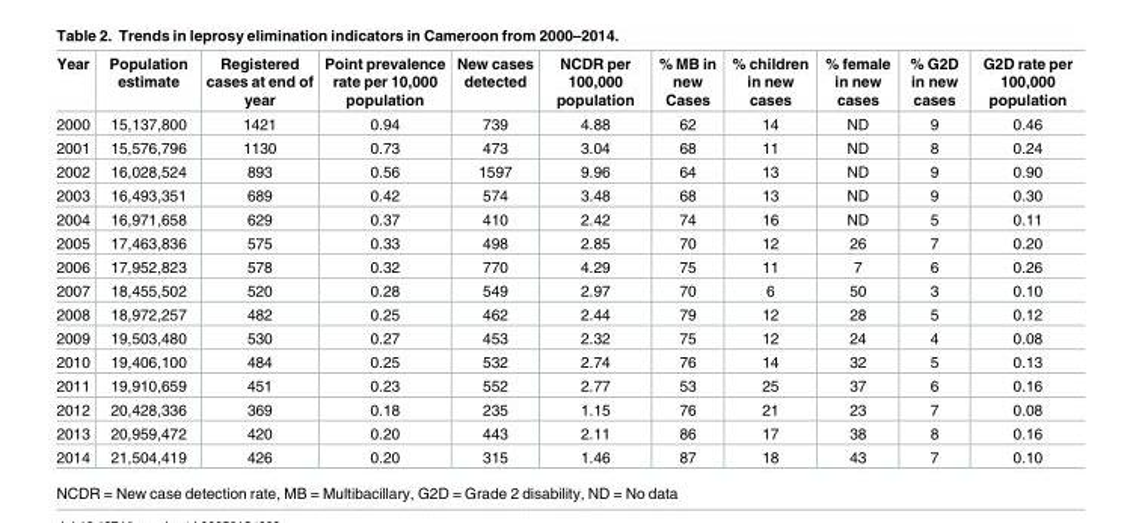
<table><thead><tr><td>Year</td><td>Population estimate</td><td>Registered cases at end of year</td><td>Point prevalence rate per 10,000 population</td><td>New cases detected</td><td>NCDR per 100,000 population</td><td>% MB in new Cases</td><td>% children in new cases</td><td>% female in new cases</td><td>% G2D in new cases</td><td>G2D rate per 100,000 population</td></tr></thead><tbody><tr><td>2000</td><td>15,137,800</td><td>1421</td><td>0.94</td><td>739</td><td>4.88</td><td>62</td><td>14</td><td>ND</td><td>9</td><td>0.46</td></tr><tr><td>2001</td><td>15,576,796</td><td>1130</td><td>0.73</td><td>473</td><td>3.04</td><td>68</td><td>11</td><td>ND</td><td>8</td><td>0.24</td></tr><tr><td>2002</td><td>16,028,524</td><td>893</td><td>0.56</td><td>1597</td><td>9.96</td><td>64</td><td>13</td><td>ND</td><td>9</td><td>0.90</td></tr><tr><td>2003</td><td>16,493,351</td><td>689</td><td>0.42</td><td>574</td><td>3.48</td><td>68</td><td>13</td><td>ND</td><td>9</td><td>0.30</td></tr><tr><td>2004</td><td>16,971,658</td><td>629</td><td>0.37</td><td>410</td><td>2.42</td><td>74</td><td>16</td><td>ND</td><td>5</td><td>0.11</td></tr><tr><td>2005</td><td>17,463,836</td><td>575</td><td>0.33</td><td>498</td><td>2.85</td><td>70</td><td>12</td><td>26</td><td>7</td><td>0.20</td></tr><tr><td>2006</td><td>17,952,823</td><td>578</td><td>0.32</td><td>770</td><td>4.29</td><td>75</td><td>11</td><td>7</td><td>6</td><td>0.26</td></tr><tr><td>2007</td><td>18,455,502</td><td>520</td><td>0.28</td><td>549</td><td>2.97</td><td>70</td><td>6</td><td>50</td><td>3</td><td>0.10</td></tr><tr><td>2008</td><td>18,972,257</td><td>482</td><td>0.25</td><td>462</td><td>2.44</td><td>79</td><td>12</td><td>28</td><td>5</td><td>0.12</td></tr><tr><td>2009</td><td>19,503,480</td><td>530</td><td>0.27</td><td>453</td><td>2.32</td><td>75</td><td>12</td><td>24</td><td>4</td><td>0.08</td></tr><tr><td>2010</td><td>19,406,100</td><td>484</td><td>0.25</td><td>532</td><td>2.74</td><td>76</td><td>14</td><td>32</td><td>5</td><td>0.13</td></tr><tr><td>2011</td><td>19,910,659</td><td>451</td><td>0.23</td><td>552</td><td>2.77</td><td>53</td><td>25</td><td>37</td><td>6</td><td>0.16</td></tr><tr><td>2012</td><td>20,428,336</td><td>369</td><td>0.18</td><td>235</td><td>1.15</td><td>76</td><td>21</td><td>23</td><td>7</td><td>0.08</td></tr><tr><td>2013</td><td>20,959,472</td><td>420</td><td>0.20</td><td>443</td><td>2.11</td><td>86</td><td>17</td><td>38</td><td>8</td><td>0.16</td></tr><tr><td>2014</td><td>21,504,419</td><td>426</td><td>0.20</td><td>315</td><td>1.46</td><td>87</td><td>18</td><td>43</td><td>7</td><td>0.10</td></tr></tbody></table>